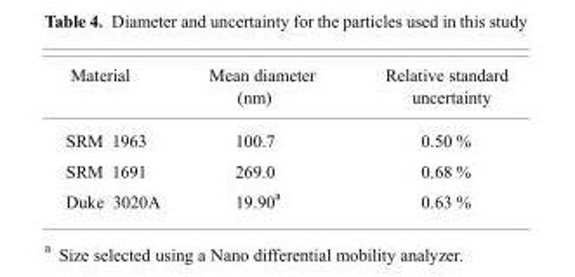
<table><thead><tr><td>Material</td><td>Mean diameter (nm)</td><td>Relative standard uncertainty</td></tr></thead><tbody><tr><td>SRM 1963</td><td>100.7</td><td>0.50 %</td></tr><tr><td>SRM 1691</td><td>269.0</td><td>0.68 %</td></tr><tr><td>Duke 3020A</td><td>19.90<sup>a</sup></td><td>0.63 %</td></tr></tbody></table>